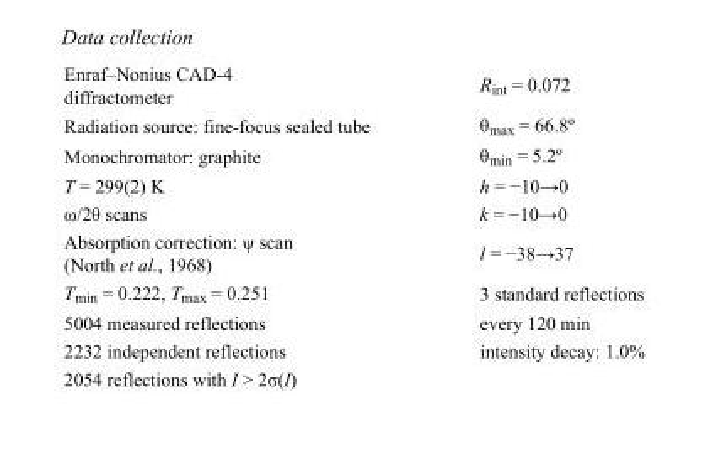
<table><tbody><tr><td>Enraf–Nonius CAD-4 diffractometer</td><td>R<sub>int</sub> = 0.072</td></tr><tr><td>Radiation source: fine-focus sealed tube</td><td>θ<sub>max</sub> = 66.8º</td></tr><tr><td>Monochromator: graphite</td><td>θ<sub>min</sub> = 5.2º</td></tr><tr><td>T = 299(2) K</td><td>h = −10→0</td></tr><tr><td>ω/2θ scans</td><td>k = −10→0</td></tr><tr><td>Absorption correction: ψ scan (North et al., 1968)</td><td>l = −38→37</td></tr><tr><td>T<sub>min</sub> = 0.222, T<sub>max</sub> = 0.251</td><td>3 standard reflections</td></tr><tr><td>5004 measured reflections</td><td>every 120 min</td></tr><tr><td>2232 independent reflections</td><td>intensity decay: 1.0%</td></tr><tr><td>2054 reflections with I &gt; 2σ(I)</td><td></td></tr></tbody></table>